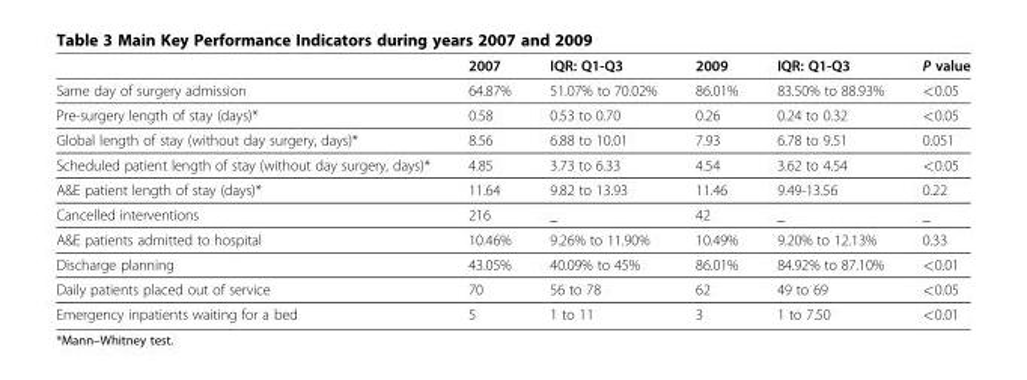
<table><thead><tr><td></td><td>2007</td><td>IQR: Q1-Q3</td><td>2009</td><td>IQR: Q1-Q3</td><td>P value</td></tr></thead><tbody><tr><td>Same day of surgery admission</td><td>64.87%</td><td>51.07% to 70.02%</td><td>86.01%</td><td>83.50% to 88.93%</td><td>&lt;0.05</td></tr><tr><td>Pre-surgery length of stay (days)*</td><td>0.58</td><td>0.53 to 0.70</td><td>0.26</td><td>0.24 to 0.32</td><td>&lt;0.05</td></tr><tr><td>Global length of stay (without day surgery, days)*</td><td>8.56</td><td>6.88 to 10.01</td><td>7.93</td><td>6.78 to 9.51</td><td>0.051</td></tr><tr><td>Scheduled patient length of stay (without day surgery, days)*</td><td>4.85</td><td>3.73 to 6.33</td><td>4.54</td><td>3.62 to 4.54</td><td>&lt;0.05</td></tr><tr><td>A&amp;E patient length of stay (days)*</td><td>11.64</td><td>9.82 to 13.93</td><td>11.46</td><td>9.49-13.56</td><td>0.22</td></tr><tr><td>Cancelled interventions</td><td>216</td><td>_</td><td>42</td><td>_</td><td>_</td></tr><tr><td>A&amp;E patients admitted to hospital</td><td>10.46%</td><td>9.26% to 11.90%</td><td>10.49%</td><td>9.20% to 12.13%</td><td>0.33</td></tr><tr><td>Discharge planning</td><td>43.05%</td><td>40.09% to 45%</td><td>86.01%</td><td>84.92% to 87.10%</td><td>&lt;0.01</td></tr><tr><td>Daily patients placed out of service</td><td>70</td><td>56 to 78</td><td>62</td><td>49 to 69</td><td>&lt;0.05</td></tr><tr><td>Emergency inpatients waiting for a bed</td><td>5</td><td>1 to 11</td><td>3</td><td>1 to 7.50</td><td>&lt;0.01</td></tr></tbody></table>